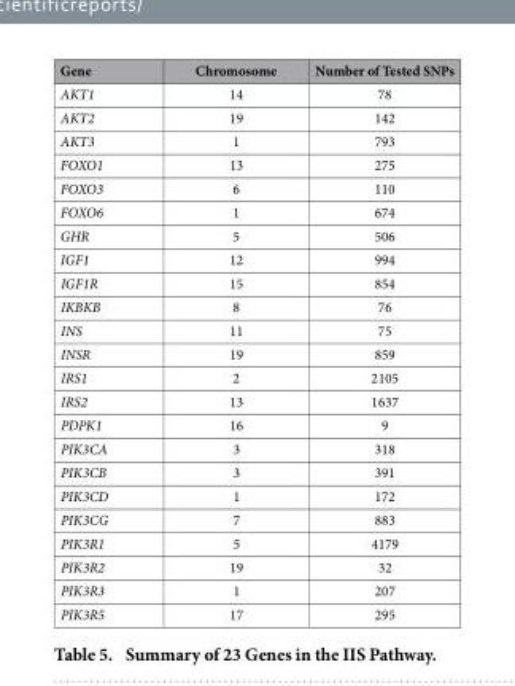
<table><thead><tr><td>Gene</td><td>Chromosome</td><td>Number of Tested SNPs</td></tr></thead><tbody><tr><td>AKT1</td><td>14</td><td>78</td></tr><tr><td>AKT2</td><td>19</td><td>142</td></tr><tr><td>AKT3</td><td>1</td><td>793</td></tr><tr><td>FOXO1</td><td>13</td><td>275</td></tr><tr><td>FOXO3</td><td>6</td><td>110</td></tr><tr><td>FOXO6</td><td>1</td><td>674</td></tr><tr><td>GHR</td><td>5</td><td>506</td></tr><tr><td>IGF1</td><td>12</td><td>994</td></tr><tr><td>IGF1R</td><td>15</td><td>854</td></tr><tr><td>IKBKB</td><td>8</td><td>76</td></tr><tr><td>INS</td><td>11</td><td>75</td></tr><tr><td>INSR</td><td>19</td><td>859</td></tr><tr><td>IRS1</td><td>2</td><td>2105</td></tr><tr><td>IRS2</td><td>13</td><td>1637</td></tr><tr><td>PDPK1</td><td>16</td><td>9</td></tr><tr><td>PIK3CA</td><td>3</td><td>318</td></tr><tr><td>PIK3CB</td><td>3</td><td>391</td></tr><tr><td>PIK3CD</td><td>1</td><td>172</td></tr><tr><td>PIK3CG</td><td>7</td><td>883</td></tr><tr><td>PIK3R1</td><td>5</td><td>4179</td></tr><tr><td>PIK3R2</td><td>19</td><td>32</td></tr><tr><td>PIK3R3</td><td>1</td><td>207</td></tr><tr><td>PIK3R5</td><td>17</td><td>295</td></tr></tbody></table>